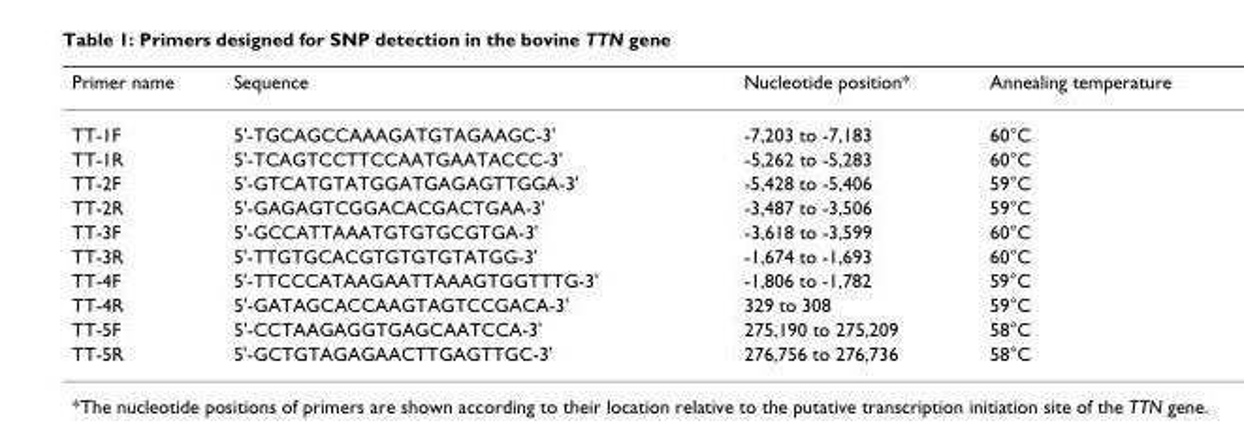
<table><thead><tr><td>Primer name</td><td>Sequence</td><td>Nucleotide position*</td><td>Annealing temperature</td></tr></thead><tbody><tr><td>TT-1F</td><td>5&#x27;-TGCAGCCAAAGATGTAGAAGC-3&#x27;</td><td>-7,203 to -7,183</td><td>60°C</td></tr><tr><td>TT-1R</td><td>5&#x27;-TCAGTCCTTCCAATGAATACCC-3&#x27;</td><td>-5,262 to -5,283</td><td>60°C</td></tr><tr><td>TT-2F</td><td>5&#x27;-GTCATGTATGGATGAGAGTTGGA-3&#x27;</td><td>-5,428 to -5,406</td><td>59°C</td></tr><tr><td>TT-2R</td><td>5&#x27;-GAGAGTCGGACACGACTGAA-3&#x27;</td><td>-3,487 to -3,506</td><td>59°C</td></tr><tr><td>TT-3F</td><td>5&#x27;-GCCATTAAATGTGTGCGTGA-3&#x27;</td><td>-3,618 to -3,599</td><td>60°C</td></tr><tr><td>TT-3R</td><td>5&#x27;-TTGTGCACGTGTGTGTATGG-3&#x27;</td><td>-1,674 to -1,693</td><td>60°C</td></tr><tr><td>TT-4F</td><td>5&#x27;-TTCCCATAAGAATTAAAGTGGTTTG-3&#x27;</td><td>-1,806 to -1,782</td><td>59°C</td></tr><tr><td>TT-4R</td><td>5&#x27;-GATAGCACCAAGTAGTCCGACA-3&#x27;</td><td>329 to 308</td><td>59°C</td></tr><tr><td>TT-5F</td><td>5&#x27;-CCTAAGAGGTGAGCAATCCA-3&#x27;</td><td>275,190 to 275,209</td><td>58°C</td></tr><tr><td>TT-5R</td><td>5&#x27;-GCTGTAGAGAACTTGAGTTGC-3&#x27;</td><td>276,756 to 276,736</td><td>58°C</td></tr></tbody></table>